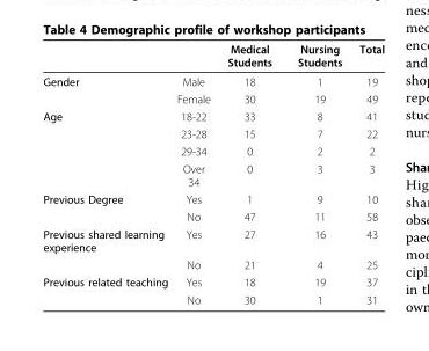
<table><thead><tr><td></td><td></td><td>Medical Students</td><td>Nursing Students</td><td>Total</td></tr></thead><tbody><tr><td rowspan="2">Gender</td><td>Male</td><td>18</td><td>1</td><td>19</td></tr><tr><td>Female</td><td>30</td><td>19</td><td>49</td></tr><tr><td rowspan="4">Age</td><td>18-22</td><td>33</td><td>8</td><td>41</td></tr><tr><td>23-28</td><td>15</td><td>7</td><td>22</td></tr><tr><td>29-34</td><td>0</td><td>2</td><td>2</td></tr><tr><td>Over 34</td><td>0</td><td>3</td><td>3</td></tr><tr><td rowspan="2">Previous Degree</td><td>Yes</td><td>1</td><td>9</td><td>10</td></tr><tr><td>No</td><td>47</td><td>11</td><td>58</td></tr><tr><td rowspan="2">Previous shared learning experience</td><td>Yes</td><td>27</td><td>16</td><td>43</td></tr><tr><td>No</td><td>21</td><td>4</td><td>25</td></tr><tr><td rowspan="2">Previous related teaching</td><td>Yes</td><td>18</td><td>19</td><td>37</td></tr><tr><td>No</td><td>30</td><td>1</td><td>31</td></tr></tbody></table>